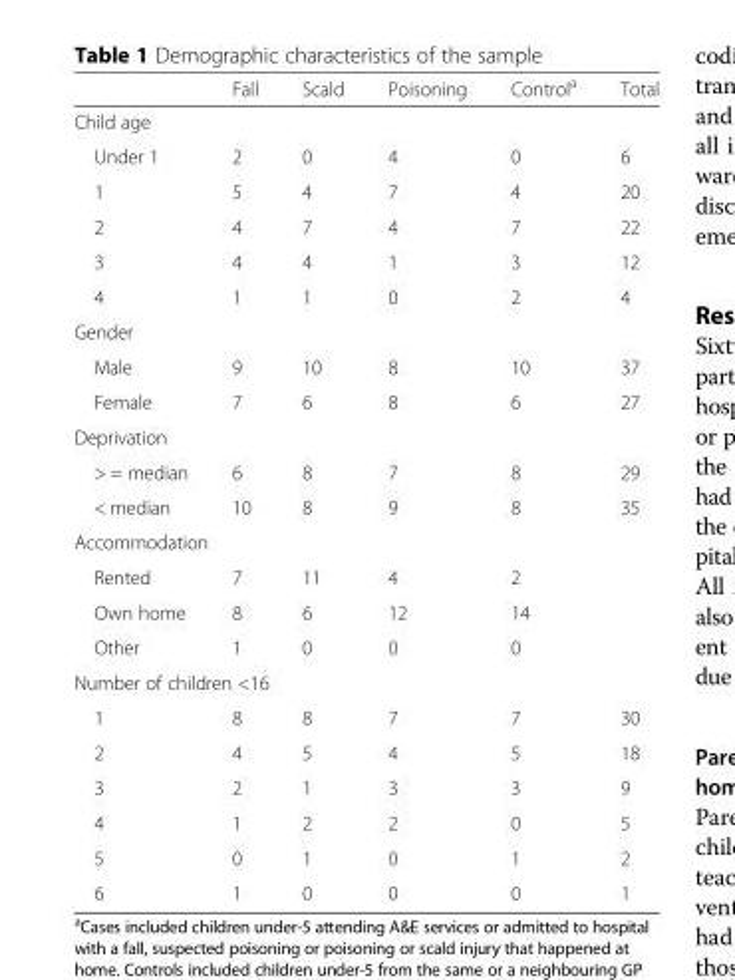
<table><thead><tr><td></td><td>Fall</td><td>Scald</td><td>Poisoning</td><td>Control<sup>a</sup></td><td>Total</td></tr></thead><tbody><tr><td colspan="6">Child age</td></tr><tr><td>Under 1</td><td>2</td><td>0</td><td>4</td><td>0</td><td>6</td></tr><tr><td>1</td><td>5</td><td>4</td><td>7</td><td>4</td><td>20</td></tr><tr><td>2</td><td>4</td><td>7</td><td>4</td><td>7</td><td>22</td></tr><tr><td>3</td><td>4</td><td>4</td><td>1</td><td>3</td><td>12</td></tr><tr><td>4</td><td>1</td><td>1</td><td>0</td><td>2</td><td>4</td></tr><tr><td colspan="6">Gender</td></tr><tr><td>Male</td><td>9</td><td>10</td><td>8</td><td>10</td><td>37</td></tr><tr><td>Female</td><td>7</td><td>6</td><td>8</td><td>6</td><td>27</td></tr><tr><td colspan="6">Deprivation</td></tr><tr><td>&gt; = median</td><td>6</td><td>8</td><td>7</td><td>8</td><td>29</td></tr><tr><td>&lt; median</td><td>10</td><td>8</td><td>9</td><td>8</td><td>35</td></tr><tr><td colspan="6">Accommodation</td></tr><tr><td>Rented</td><td>7</td><td>11</td><td>4</td><td>2</td><td></td></tr><tr><td>Own home</td><td>8</td><td>6</td><td>12</td><td>14</td><td></td></tr><tr><td>Other</td><td>1</td><td>0</td><td>0</td><td>0</td><td></td></tr><tr><td colspan="6">Number of children &lt;16</td></tr><tr><td>1</td><td>8</td><td>8</td><td>7</td><td>7</td><td>30</td></tr><tr><td>2</td><td>4</td><td>5</td><td>4</td><td>5</td><td>18</td></tr><tr><td>3</td><td>2</td><td>1</td><td>3</td><td>3</td><td>9</td></tr><tr><td>4</td><td>1</td><td>2</td><td>2</td><td>0</td><td>5</td></tr><tr><td>5</td><td>0</td><td>1</td><td>0</td><td>1</td><td>2</td></tr><tr><td>6</td><td>1</td><td>0</td><td>0</td><td>0</td><td>1</td></tr></tbody></table>